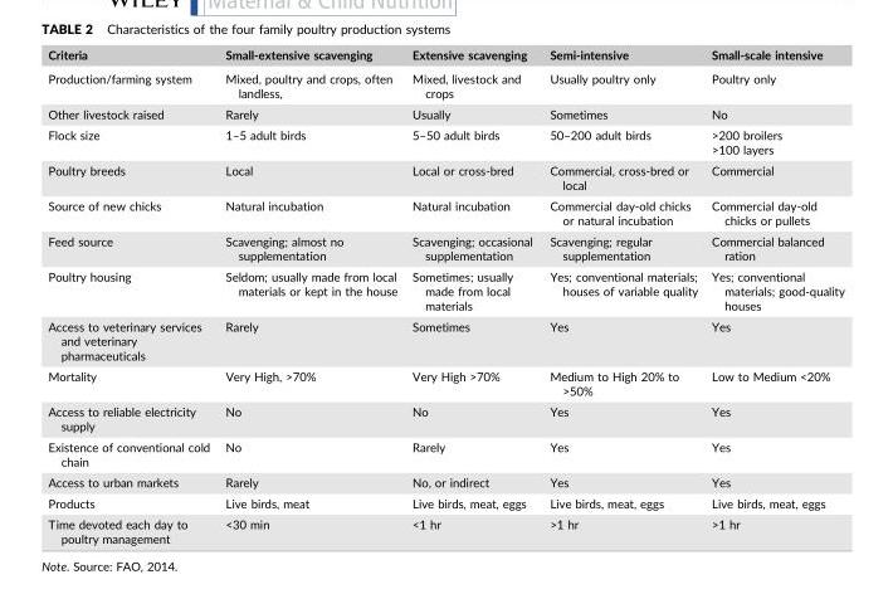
<table><thead><tr><td>Criteria</td><td>Small‐extensive scavenging</td><td>Extensive scavenging</td><td>Semi‐intensive</td><td>Small‐scale intensive</td></tr></thead><tbody><tr><td>Production/farming system</td><td>Mixed, poultry and crops, often landless,</td><td>Mixed, livestock and crops</td><td>Usually poultry only</td><td>Poultry only</td></tr><tr><td>Other livestock raised</td><td>Rarely</td><td>Usually</td><td>Sometimes</td><td>No</td></tr><tr><td rowspan="2">Flock size</td><td rowspan="2">1–5 adult birds</td><td rowspan="2">5–50 adult birds</td><td rowspan="2">50–200 adult birds</td><td>&gt;200 broilers</td></tr><tr><td>&gt;100 layers</td></tr><tr><td>Poultry breeds</td><td>Local</td><td>Local or cross‐bred</td><td>Commercial, cross‐bred or local</td><td>Commercial</td></tr><tr><td>Source of new chicks</td><td>Natural incubation</td><td>Natural incubation</td><td>Commercial day‐old chicks or natural incubation</td><td>Commercial day‐old chicks or pullets</td></tr><tr><td>Feed source</td><td>Scavenging; almost no supplementation</td><td>Scavenging; occasional supplementation</td><td>Scavenging; regular supplementation</td><td>Commercial balanced ration</td></tr><tr><td>Poultry housing</td><td>Seldom; usually made from local materials or kept in the house</td><td>Sometimes; usually made from local materials</td><td>Yes; conventional materials; houses of variable quality</td><td>Yes; conventional materials; good‐quality houses</td></tr><tr><td>Access to veterinary services and veterinary pharmaceuticals</td><td>Rarely</td><td>Sometimes</td><td>Yes</td><td>Yes</td></tr><tr><td>Mortality</td><td>Very High, &gt;70%</td><td>Very High &gt;70%</td><td>Medium to High 20% to &gt;50%</td><td>Low to Medium &lt;20%</td></tr><tr><td>Access to reliable electricity supply</td><td>No</td><td>No</td><td>Yes</td><td>Yes</td></tr><tr><td>Existence of conventional cold chain</td><td>No</td><td>Rarely</td><td>Yes</td><td>Yes</td></tr><tr><td>Access to urban markets</td><td>Rarely</td><td>No, or indirect</td><td>Yes</td><td>Yes</td></tr><tr><td>Products</td><td>Live birds, meat</td><td>Live birds, meat, eggs</td><td>Live birds, meat, eggs</td><td>Live birds, meat, eggs</td></tr><tr><td>Time devoted each day to poultry management</td><td>&lt;30 min</td><td>&lt;1 hr</td><td>&gt;1 hr</td><td>&gt;1 hr</td></tr></tbody></table>